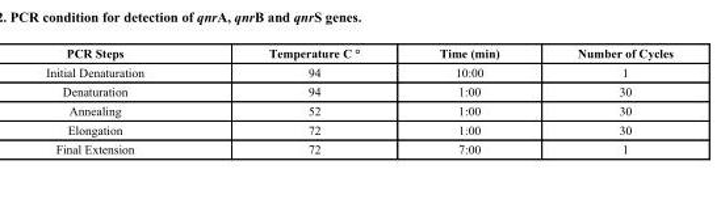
<table><thead><tr><td>PCR Steps</td><td>Temperature C °</td><td>Time (min)</td><td>Number of Cycles</td></tr></thead><tbody><tr><td>Initial Denaturation</td><td>94</td><td>10:00</td><td>1</td></tr><tr><td>Denaturation</td><td>94</td><td>1:00</td><td>30</td></tr><tr><td>Annealing</td><td>52</td><td>1:00</td><td>30</td></tr><tr><td>Elongation</td><td>72</td><td>1:00</td><td>30</td></tr><tr><td>Final Extension</td><td>72</td><td>7:00</td><td>1</td></tr></tbody></table>